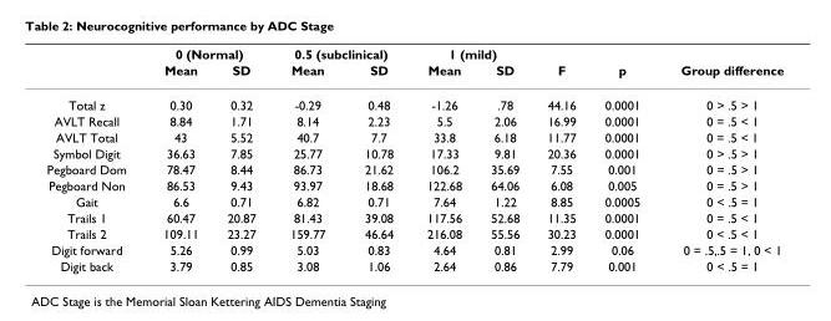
<table><thead><tr><td rowspan="2"></td><td colspan="2">0 (Normal)</td><td colspan="2">0.5 (subclinical)</td><td colspan="2">1 (mild)</td><td rowspan="2">F</td><td rowspan="2">p</td><td rowspan="2">Group difference</td></tr><tr><td>Mean</td><td>SD</td><td>Mean</td><td>SD</td><td>Mean</td><td>SD</td></tr></thead><tbody><tr><td>Total z</td><td>0.30</td><td>0.32</td><td>-0.29</td><td>0.48</td><td>-1.26</td><td>.78</td><td>44.16</td><td>0.0001</td><td>0 &gt; .5 &gt; 1</td></tr><tr><td>AVLT Recall</td><td>8.84</td><td>1.71</td><td>8.14</td><td>2.23</td><td>5.5</td><td>2.06</td><td>16.99</td><td>0.0001</td><td>0 = .5 &lt; 1</td></tr><tr><td>AVLT Total</td><td>43</td><td>5.52</td><td>40.7</td><td>7.7</td><td>33.8</td><td>6.18</td><td>11.77</td><td>0.0001</td><td>0 = .5 &lt; 1</td></tr><tr><td>Symbol Digit</td><td>36.63</td><td>7.85</td><td>25.77</td><td>10.78</td><td>17.33</td><td>9.81</td><td>20.36</td><td>0.0001</td><td>0 &gt; .5 &gt; 1</td></tr><tr><td>Pegboard Dom</td><td>78.47</td><td>8.44</td><td>86.73</td><td>21.62</td><td>106.2</td><td>35.69</td><td>7.55</td><td>0.001</td><td>0 = .5 &gt; 1</td></tr><tr><td>Pegboard Non</td><td>86.53</td><td>9.43</td><td>93.97</td><td>18.68</td><td>122.68</td><td>64.06</td><td>6.08</td><td>0.005</td><td>0 = .5 &gt; 1</td></tr><tr><td>Gait</td><td>6.6</td><td>0.71</td><td>6.82</td><td>0.71</td><td>7.64</td><td>1.22</td><td>8.85</td><td>0.0005</td><td>0 &lt; .5 = 1</td></tr><tr><td>Trails 1</td><td>60.47</td><td>20.87</td><td>81.43</td><td>39.08</td><td>117.56</td><td>52.68</td><td>11.35</td><td>0.0001</td><td>0 = .5 &lt; 1</td></tr><tr><td>Trails 2</td><td>109.11</td><td>23.27</td><td>159.77</td><td>46.64</td><td>216.08</td><td>55.56</td><td>30.23</td><td>0.0001</td><td>0 &lt; .5 &lt; 1</td></tr><tr><td>Digit forward</td><td>5.26</td><td>0.99</td><td>5.03</td><td>0.83</td><td>4.64</td><td>0.81</td><td>2.99</td><td>0.06</td><td>0 = .5,.5 = 1, 0 &lt; 1</td></tr><tr><td>Digit back</td><td>3.79</td><td>0.85</td><td>3.08</td><td>1.06</td><td>2.64</td><td>0.86</td><td>7.79</td><td>0.001</td><td>0 &lt; .5 = 1</td></tr></tbody></table>